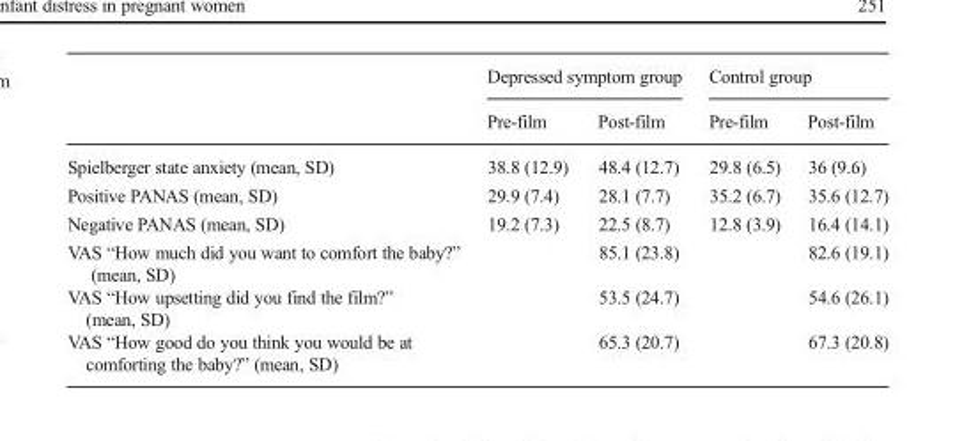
<table><thead><tr><td rowspan="2"></td><td colspan="2">Depressed symptom group</td><td colspan="2">Control group</td></tr><tr><td>Pre-film</td><td>Post-film</td><td>Pre-film</td><td>Post-film</td></tr></thead><tbody><tr><td>Spielberger state anxiety (mean, SD)</td><td>38.8 (12.9)</td><td>48.4 (12.7)</td><td>29.8 (6.5)</td><td>36 (9.6)</td></tr><tr><td>Positive PANAS (mean, SD)</td><td>29.9 (7.4)</td><td>28.1 (7.7)</td><td>35.2 (6.7)</td><td>35.6 (12.7)</td></tr><tr><td>Negative PANAS (mean, SD)</td><td>19.2 (7.3)</td><td>22.5 (8.7)</td><td>12.8 (3.9)</td><td>16.4 (14.1)</td></tr><tr><td>VAS “How much did you want to comfort the baby?” (mean, SD)</td><td rowspan="3"></td><td>85.1 (23.8)</td><td rowspan="3"></td><td>82.6 (19.1)</td></tr><tr><td>VAS “How upsetting did you find the film?” (mean, SD)</td><td>53.5 (24.7)</td><td>54.6 (26.1)</td></tr><tr><td>VAS “How good do you think you would be at comforting the baby?” (mean, SD)</td><td>65.3 (20.7)</td><td>67.3 (20.8)</td></tr></tbody></table>